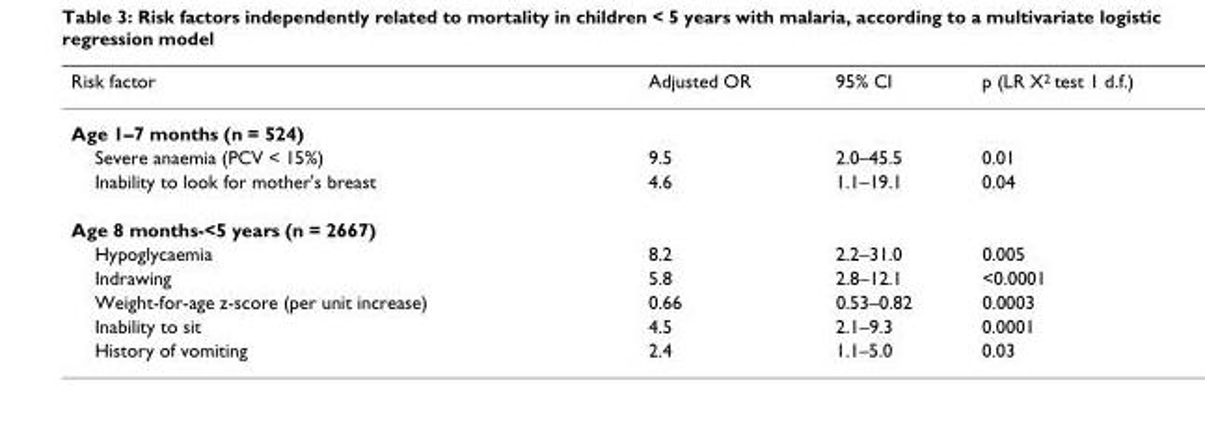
<table><thead><tr><td>Risk factor</td><td>Adjusted OR</td><td>95% CI</td><td>p (LR X<sup>2</sup> test 1 d.f.)</td></tr></thead><tbody><tr><td colspan="4">Age 1–7 months (n = 524)</td></tr><tr><td>Severe anaemia (PCV &lt; 15%)</td><td>9.5</td><td>2.0–45.5</td><td>0.01</td></tr><tr><td>Inability to look for mother&#x27;s breast</td><td>4.6</td><td>1.1–19.1</td><td>0.04</td></tr><tr><td colspan="4">Age 8 months-&lt;5 years (n = 2667)</td></tr><tr><td>Hypoglycaemia</td><td>8.2</td><td>2.2–31.0</td><td>0.005</td></tr><tr><td>Indrawing</td><td>5.8</td><td>2.8–12.1</td><td>&lt;0.0001</td></tr><tr><td>Weight-for-age z-score (per unit increase)</td><td>0.66</td><td>0.53–0.82</td><td>0.0003</td></tr><tr><td>Inability to sit</td><td>4.5</td><td>2.1–9.3</td><td>0.0001</td></tr><tr><td>History of vomiting</td><td>2.4</td><td>1.1–5.0</td><td>0.03</td></tr></tbody></table>